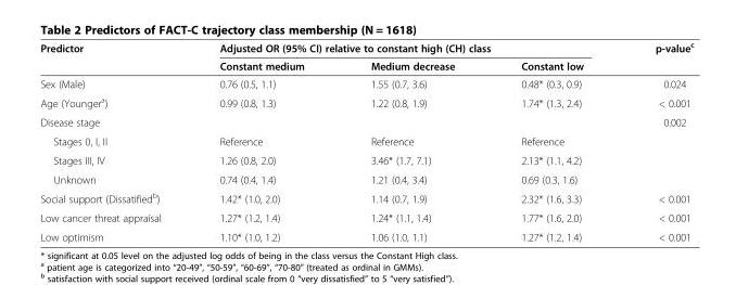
<table><thead><tr><td rowspan="2">Predictor</td><td colspan="3">Adjusted OR (95% CI) relative to constant high (CH) class</td><td rowspan="2">p-value<sup>c</sup></td></tr><tr><td>Constant medium</td><td>Medium decrease</td><td>Constant low</td></tr></thead><tbody><tr><td>Sex (Male)</td><td>0.76 (0.5, 1.1)</td><td>1.55 (0.7, 3.6)</td><td>0.48* (0.3, 0.9)</td><td>0.024</td></tr><tr><td>Age (Younger<sup>a</sup>)</td><td>0.99 (0.8, 1.3)</td><td>1.22 (0.8, 1.9)</td><td>1.74* (1.3, 2.4)</td><td>&lt; 0.001</td></tr><tr><td>Disease stage</td><td></td><td></td><td></td><td>0.002</td></tr><tr><td>Stages 0, I, II</td><td>Reference</td><td>Reference</td><td>Reference</td><td></td></tr><tr><td>Stages III, IV</td><td>1.26 (0.8, 2.0)</td><td>3.46* (1.7, 7.1)</td><td>2.13* (1.1, 4.2)</td><td></td></tr><tr><td>Unknown</td><td>0.74 (0.4, 1.4)</td><td>1.21 (0.4, 3.4)</td><td>0.69 (0.3, 1.6)</td><td></td></tr><tr><td>Social support (Dissatified<sup>b</sup>)</td><td>1.42* (1.0, 2.0)</td><td>1.14 (0.7, 1.9)</td><td>2.32* (1.6, 3.3)</td><td>&lt; 0.001</td></tr><tr><td>Low cancer threat appraisal</td><td>1.27* (1.2, 1.4)</td><td>1.24* (1.1, 1.4)</td><td>1.77* (1.6, 2.0)</td><td>&lt; 0.001</td></tr><tr><td>Low optimism</td><td>1.10* (1.0, 1.2)</td><td>1.06 (1.0, 1.1)</td><td>1.27* (1.2, 1.4)</td><td>&lt; 0.001</td></tr></tbody></table>